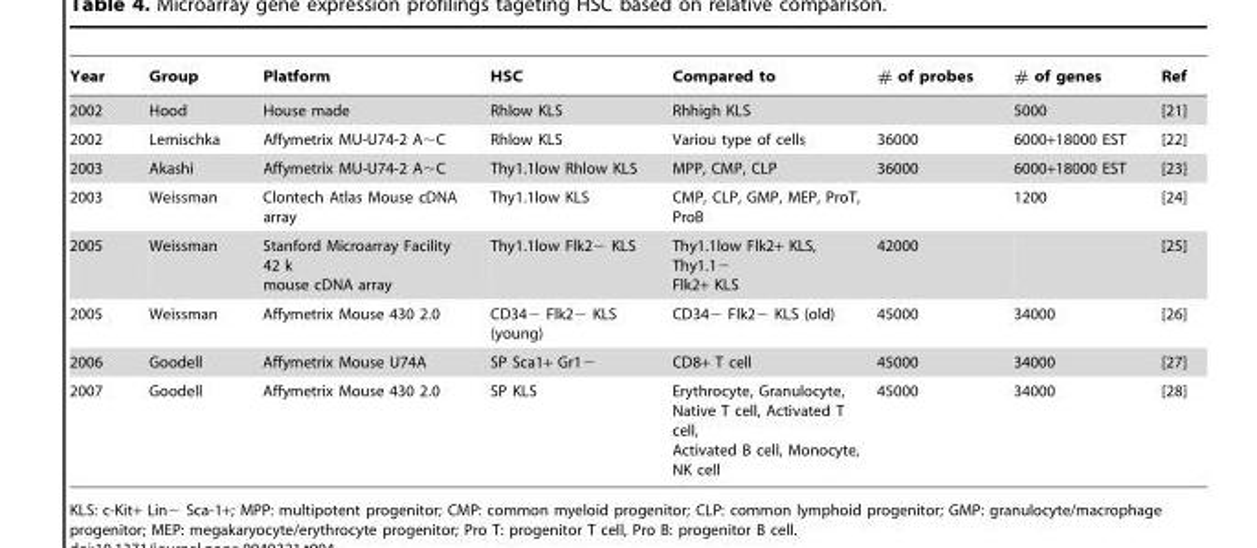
<table><thead><tr><td>Year</td><td>Group</td><td>Platform</td><td>HSC</td><td>Compared to</td><td># of probes</td><td># of genes</td><td>Ref</td></tr></thead><tbody><tr><td>2002</td><td>Hood</td><td>House made</td><td>Rhlow KLS</td><td>Rhhigh KLS</td><td></td><td>5000</td><td>[21]</td></tr><tr><td>2002</td><td>Lemischka</td><td>Affymetrix MU-U74-2 A∼C</td><td>Rhlow KLS</td><td>Variou type of cells</td><td>36000</td><td>6000+18000 EST</td><td>[22]</td></tr><tr><td>2003</td><td>Akashi</td><td>Affymetrix MU-U74-2 A∼C</td><td>Thy1.1low Rhlow KLS</td><td>MPP, CMP, CLP</td><td>36000</td><td>6000+18000 EST</td><td>[23]</td></tr><tr><td>2003</td><td>Weissman</td><td>Clontech Atlas Mouse cDNA array</td><td>Thy1.1low KLS</td><td>CMP, CLP, GMP, MEP, ProT, ProB</td><td></td><td>1200</td><td>[24]</td></tr><tr><td>2005</td><td>Weissman</td><td>Stanford Microarray Facility 42 k mouse cDNA array</td><td>Thy1.1low Flk2− KLS</td><td>Thy1.1low Flk2+ KLS, Thy1.1− Flk2+ KLS</td><td>42000</td><td></td><td>[25]</td></tr><tr><td>2005</td><td>Weissman</td><td>Affymetrix Mouse 430 2.0</td><td>CD34− Flk2− KLS (young)</td><td>CD34− Flk2− KLS (old)</td><td>45000</td><td>34000</td><td>[26]</td></tr><tr><td>2006</td><td>Goodell</td><td>Affymetrix Mouse U74A</td><td>SP Sca1+ Gr1−</td><td>CD8+ T cell</td><td>45000</td><td>34000</td><td>[27]</td></tr><tr><td>2007</td><td>Goodell</td><td>Affymetrix Mouse 430 2.0</td><td>SP KLS</td><td>Erythrocyte, Granulocyte, Native T cell, Activated T cell, Activated B cell, Monocyte, NK cell</td><td>45000</td><td>34000</td><td>[28]</td></tr></tbody></table>